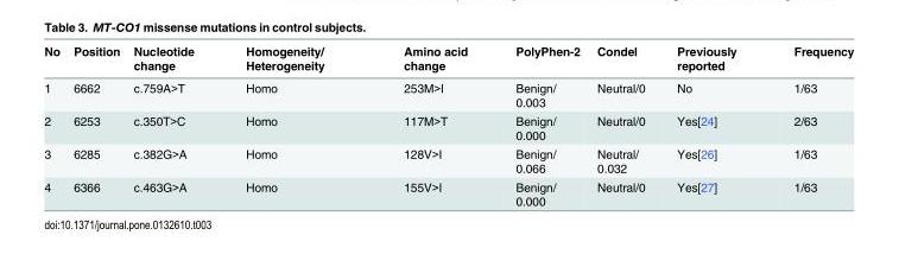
<table><thead><tr><td>No</td><td>Position</td><td>Nucleotide change</td><td>Homogeneity/ Heterogeneity</td><td>Amino acid change</td><td>PolyPhen-2</td><td>Condel</td><td>Previously reported</td><td>Frequency</td></tr></thead><tbody><tr><td>1</td><td>6662</td><td>c.759A&gt;T</td><td>Homo</td><td>253M&gt;I</td><td>Benign/ 0.003</td><td>Neutral/0</td><td>No</td><td>1/63</td></tr><tr><td>2</td><td>6253</td><td>c.350T&gt;C</td><td>Homo</td><td>117M&gt;T</td><td>Benign/ 0.000</td><td>Neutral/0</td><td>Yes[24]</td><td>2/63</td></tr><tr><td>3</td><td>6285</td><td>c.382G&gt;A</td><td>Homo</td><td>128V&gt;I</td><td>Benign/ 0.066</td><td>Neutral/ 0.032</td><td>Yes[26]</td><td>1/63</td></tr><tr><td>4</td><td>6366</td><td>c.463G&gt;A</td><td>Homo</td><td>155V&gt;I</td><td>Benign/ 0.000</td><td>Neutral/0</td><td>Yes[27]</td><td>1/63</td></tr></tbody></table>